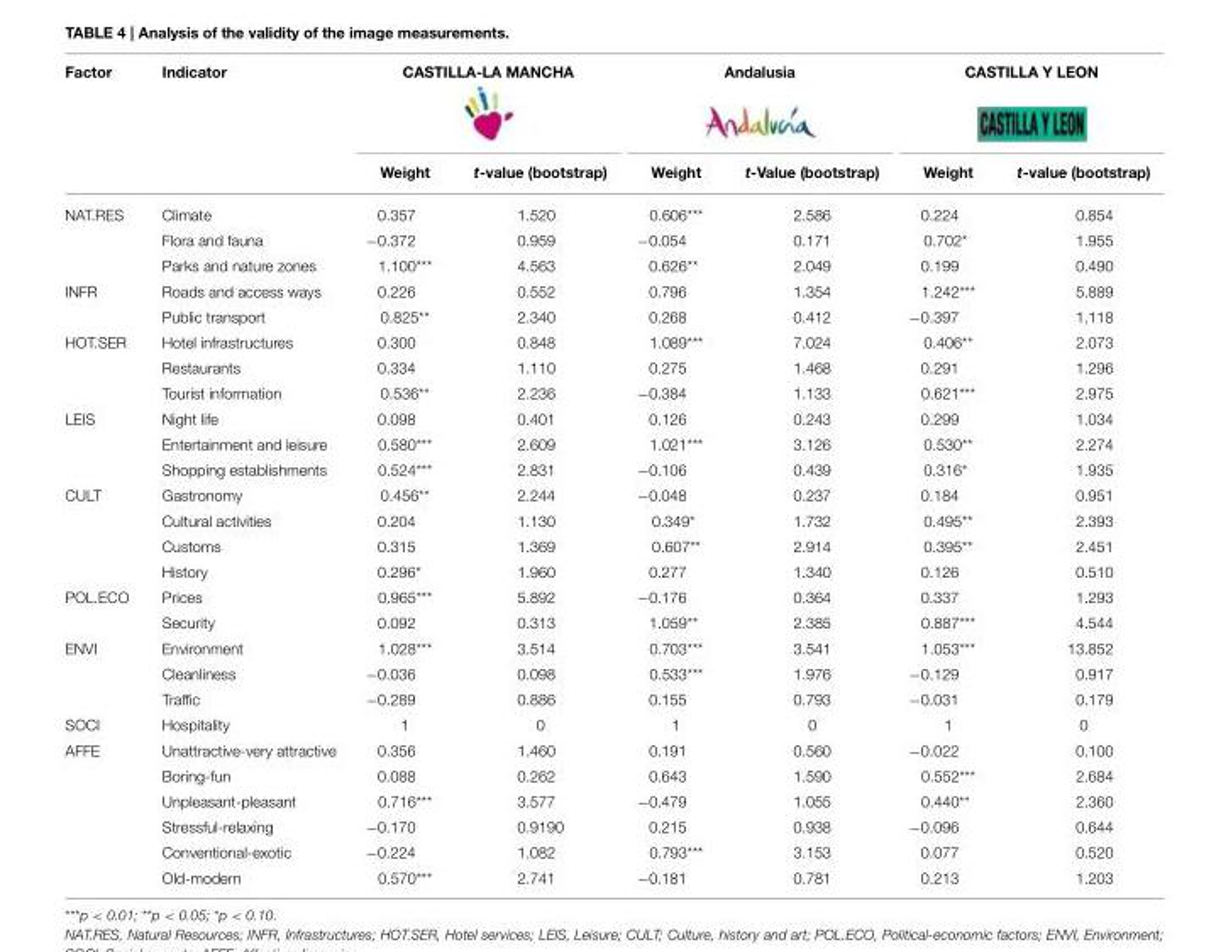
<table><thead><tr><td rowspan="2">Factor</td><td rowspan="2">Indicator</td><td colspan="2">CASTILLA-LA MANCHA</td><td colspan="2">Andalusia</td><td colspan="2">CASTILLA Y LEON</td></tr><tr><td>Weight</td><td>t-value (bootstrap)</td><td>Weight</td><td>t-Value (bootstrap)</td><td>Weight</td><td>t-value (bootstrap)</td></tr></thead><tbody><tr><td rowspan="3">NAT.RES</td><td>Climate</td><td>0.357</td><td>1.520</td><td>0.606***</td><td>2.586</td><td>0.224</td><td>0.854</td></tr><tr><td>Flora and fauna</td><td>−0.372</td><td>0.959</td><td>−0.054</td><td>0.171</td><td>0.702*</td><td>1.955</td></tr><tr><td>Parks and nature zones</td><td>1.100***</td><td>4.563</td><td>0.626**</td><td>2.049</td><td>0.199</td><td>0.490</td></tr><tr><td rowspan="2">INFR</td><td>Roads and access ways</td><td>0.226</td><td>0.552</td><td>0.796</td><td>1.354</td><td>1.242***</td><td>5.889</td></tr><tr><td>Public transport</td><td>0.825**</td><td>2.340</td><td>0.268</td><td>0.412</td><td>−0.397</td><td>1.118</td></tr><tr><td rowspan="3">HOT.SER</td><td>Hotel infrastructures</td><td>0.300</td><td>0.848</td><td>1.089***</td><td>7.024</td><td>0.406**</td><td>2.073</td></tr><tr><td>Restaurants</td><td>0.334</td><td>1.110</td><td>0.275</td><td>1.468</td><td>0.291</td><td>1.296</td></tr><tr><td>Tourist information</td><td>0.536**</td><td>2.236</td><td>−0.384</td><td>1.133</td><td>0.621***</td><td>2.975</td></tr><tr><td rowspan="3">LEIS</td><td>Night life</td><td>0.098</td><td>0.401</td><td>0.126</td><td>0.243</td><td>0.299</td><td>1.034</td></tr><tr><td>Entertainment and leisure</td><td>0.580***</td><td>2.609</td><td>1.021***</td><td>3.126</td><td>0.530**</td><td>2.274</td></tr><tr><td>Shopping establishments</td><td>0.524***</td><td>2.831</td><td>−0.106</td><td>0.439</td><td>0.316*</td><td>1.935</td></tr><tr><td rowspan="4">CULT</td><td>Gastronomy</td><td>0.456**</td><td>2.244</td><td>−0.048</td><td>0.237</td><td>0.184</td><td>0.951</td></tr><tr><td>Cultural activities</td><td>0.204</td><td>1.130</td><td>0.349*</td><td>1.732</td><td>0.495**</td><td>2.393</td></tr><tr><td>Customs</td><td>0.315</td><td>1.369</td><td>0.607**</td><td>2.914</td><td>0.395**</td><td>2.451</td></tr><tr><td>History</td><td>0.296*</td><td>1.960</td><td>0.277</td><td>1.340</td><td>0.126</td><td>0.510</td></tr><tr><td rowspan="2">POL.ECO</td><td>Prices</td><td>0.965***</td><td>5.892</td><td>−0.176</td><td>0.364</td><td>0.337</td><td>1.293</td></tr><tr><td>Security</td><td>0.092</td><td>0.313</td><td>1.059**</td><td>2.385</td><td>0.887***</td><td>4.544</td></tr><tr><td rowspan="3">ENVI</td><td>Environment</td><td>1.028***</td><td>3.514</td><td>0.703***</td><td>3.541</td><td>1.053***</td><td>13.852</td></tr><tr><td>Cleanliness</td><td>−0.036</td><td>0.098</td><td>0.533***</td><td>1.976</td><td>−0.129</td><td>0.917</td></tr><tr><td>Traffic</td><td>−0.289</td><td>0.886</td><td>0.155</td><td>0.793</td><td>−0.031</td><td>0.179</td></tr><tr><td>SOCI</td><td>Hospitality</td><td>1</td><td>0</td><td>1</td><td>0</td><td>1</td><td>0</td></tr><tr><td rowspan="6">AFFE</td><td>Unattractive-very attractive</td><td>0.356</td><td>1.460</td><td>0.191</td><td>0.560</td><td>−0.022</td><td>0.100</td></tr><tr><td>Boring-fun</td><td>0.088</td><td>0.262</td><td>0.643</td><td>1.590</td><td>0.552***</td><td>2.684</td></tr><tr><td>Unpleasant-pleasant</td><td>0.716***</td><td>3.577</td><td>−0.479</td><td>1.055</td><td>0.440**</td><td>2.360</td></tr><tr><td>Stressful-relaxing</td><td>−0.170</td><td>0.9190</td><td>0.215</td><td>0.938</td><td>−0.096</td><td>0.644</td></tr><tr><td>Conventional-exotic</td><td>−0.224</td><td>1.082</td><td>0.793***</td><td>3.153</td><td>0.077</td><td>0.520</td></tr><tr><td>Old-modern</td><td>0.570***</td><td>2.741</td><td>−0.181</td><td>0.781</td><td>0.213</td><td>1.203</td></tr></tbody></table>